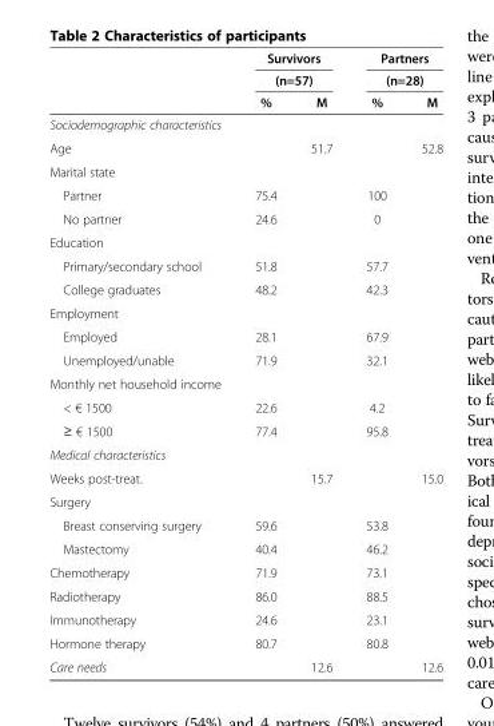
<table><thead><tr><td rowspan="3"></td><td rowspan="2" colspan="2">Survivors (n=57)</td><td rowspan="2" colspan="2">Partners (n=28)</td></tr><tr></tr><tr><td>%</td><td>M</td><td>%</td><td>M</td></tr></thead><tbody><tr><td colspan="5">Sociodemographic characteristics</td></tr><tr><td>Age</td><td></td><td>51.7</td><td></td><td>52.8</td></tr><tr><td colspan="5">Marital state</td></tr><tr><td>Partner</td><td>75.4</td><td></td><td>100</td><td></td></tr><tr><td>No partner</td><td>24.6</td><td></td><td>0</td><td></td></tr><tr><td colspan="5">Education</td></tr><tr><td>Primary/secondary school</td><td>51.8</td><td></td><td>57.7</td><td></td></tr><tr><td>College graduates</td><td>48.2</td><td></td><td>42.3</td><td></td></tr><tr><td colspan="5">Employment</td></tr><tr><td>Employed</td><td>28.1</td><td></td><td>67.9</td><td></td></tr><tr><td>Unemployed/unable</td><td>71.9</td><td></td><td>32.1</td><td></td></tr><tr><td colspan="5">Monthly net household income</td></tr><tr><td>&lt; € 1500</td><td>22.6</td><td></td><td>4.2</td><td></td></tr><tr><td>≥ € 1500</td><td>77.4</td><td></td><td>95.8</td><td></td></tr><tr><td colspan="5">Medical characteristics</td></tr><tr><td>Weeks post-treat.</td><td></td><td>15.7</td><td></td><td>15.0</td></tr><tr><td colspan="5">Surgery</td></tr><tr><td>Breast conserving surgery</td><td>59.6</td><td></td><td>53.8</td><td></td></tr><tr><td>Mastectomy</td><td>40.4</td><td></td><td>46.2</td><td></td></tr><tr><td>Chemotherapy</td><td>71.9</td><td></td><td>73.1</td><td></td></tr><tr><td>Radiotherapy</td><td>86.0</td><td></td><td>88.5</td><td></td></tr><tr><td>Immunotherapy</td><td>24.6</td><td></td><td>23.1</td><td></td></tr><tr><td>Hormone therapy</td><td>80.7</td><td></td><td>80.8</td><td></td></tr><tr><td>Care needs</td><td></td><td>12.6</td><td></td><td>12.6</td></tr></tbody></table>